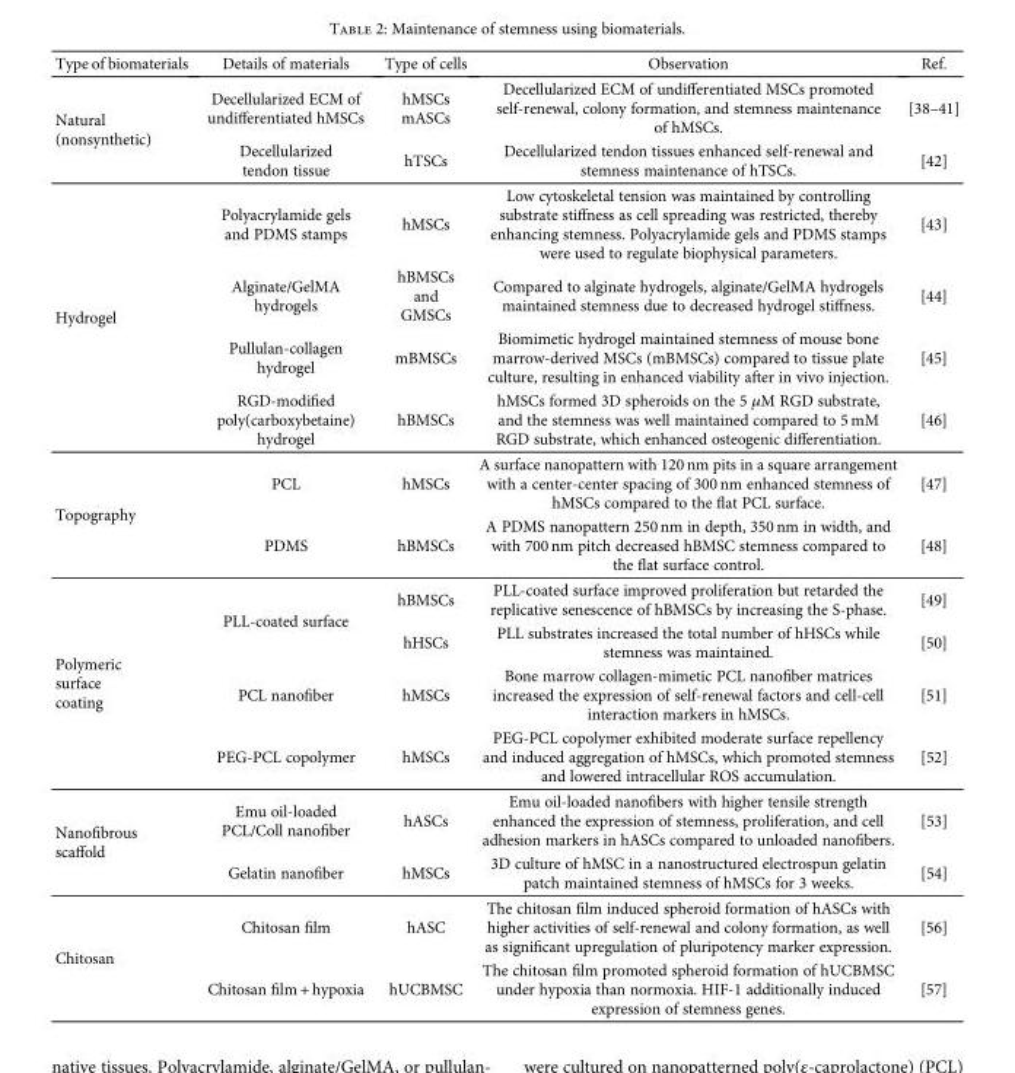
<table><thead><tr><td>Type of biomaterials</td><td>Details of materials</td><td>Type of cells</td><td>Observation</td><td>Ref.</td></tr></thead><tbody><tr><td rowspan="2">Natural (nonsynthetic)</td><td>Decellularized ECM of undifferentiated hMSCs</td><td>hMSCs mASCs</td><td>Decellularized ECM of undifferentiated MSCs promoted self-renewal, colony formation, and stemness maintenance of hMSCs.</td><td>[38–41]</td></tr><tr><td>Decellularized tendon tissue</td><td>hTSCs</td><td>Decellularized tendon tissues enhanced self-renewal and stemness maintenance of hTSCs.</td><td>[42]</td></tr><tr><td rowspan="4">Hydrogel</td><td>Polyacrylamide gels and PDMS stamps</td><td>hMSCs</td><td>Low cytoskeletal tension was maintained by controlling substrate stiffness as cell spreading was restricted, thereby enhancing stemness. Polyacrylamide gels and PDMS stamps were used to regulate biophysical parameters.</td><td>[43]</td></tr><tr><td>Alginate/GelMA hydrogels</td><td>hBMSCs and GMSCs</td><td>Compared to alginate hydrogels, alginate/GelMA hydrogels maintained stemness due to decreased hydrogel stiffness.</td><td>[44]</td></tr><tr><td>Pullulan-collagen hydrogel</td><td>mBMSCs</td><td>Biomimetic hydrogel maintained stemness of mouse bone marrow-derived MSCs (mBMSCs) compared to tissue plate culture, resulting in enhanced viability after in vivo injection.</td><td>[45]</td></tr><tr><td>RGD-modified poly(carboxybetaine) hydrogel</td><td>hBMSCs</td><td>hMSCs formed 3D spheroids on the 5 μM RGD substrate, and the stemness was well maintained compared to 5 mM RGD substrate, which enhanced osteogenic differentiation.</td><td>[46]</td></tr><tr><td rowspan="2">Topography</td><td>PCL</td><td>hMSCs</td><td>A surface nanopattern with 120 nm pits in a square arrangement with a center-center spacing of 300 nm enhanced stemness of hMSCs compared to the flat PCL surface.</td><td>[47]</td></tr><tr><td>PDMS</td><td>hBMSCs</td><td>A PDMS nanopattern 250 nm in depth, 350 nm in width, and with 700 nm pitch decreased hBMSC stemness compared to the flat surface control.</td><td>[48]</td></tr><tr><td rowspan="4">Polymeric surface coating</td><td rowspan="2">PLL-coated surface</td><td>hBMSCs</td><td>PLL-coated surface improved proliferation but retarded the replicative senescence of hBMSCs by increasing the S-phase.</td><td>[49]</td></tr><tr><td>hHSCs</td><td>PLL substrates increased the total number of hHSCs while stemness was maintained.</td><td>[50]</td></tr><tr><td>PCL nanofiber</td><td>hMSCs</td><td>Bone marrow collagen-mimetic PCL nanofiber matrices increased the expression of self-renewal factors and cell-cell interaction markers in hMSCs.</td><td>[51]</td></tr><tr><td>PEG-PCL copolymer</td><td>hMSCs</td><td>PEG-PCL copolymer exhibited moderate surface repellency and induced aggregation of hMSCs, which promoted stemness and lowered intracellular ROS accumulation.</td><td>[52]</td></tr><tr><td rowspan="2">Nanofibrous scaffold</td><td>Emu oil-loaded PCL/Coll nanofiber</td><td>hASCs</td><td>Emu oil-loaded nanofibers with higher tensile strength enhanced the expression of stemness, proliferation, and cell adhesion markers in hASCs compared to unloaded nanofibers.</td><td>[53]</td></tr><tr><td>Gelatin nanofiber</td><td>hMSCs</td><td>3D culture of hMSC in a nanostructured electrospun gelatin patch maintained stemness of hMSCs for 3 weeks.</td><td>[54]</td></tr><tr><td rowspan="2">Chitosan</td><td>Chitosan film</td><td>hASC</td><td>The chitosan film induced spheroid formation of hASCs with higher activities of self-renewal and colony formation, as well as significant upregulation of pluripotency marker expression.</td><td>[56]</td></tr><tr><td>Chitosan film + hypoxia</td><td>hUCBMSC</td><td>The chitosan film promoted spheroid formation of hUCBMSC under hypoxia than normoxia. HIF-1 additionally induced expression of stemness genes.</td><td>[57]</td></tr></tbody></table>